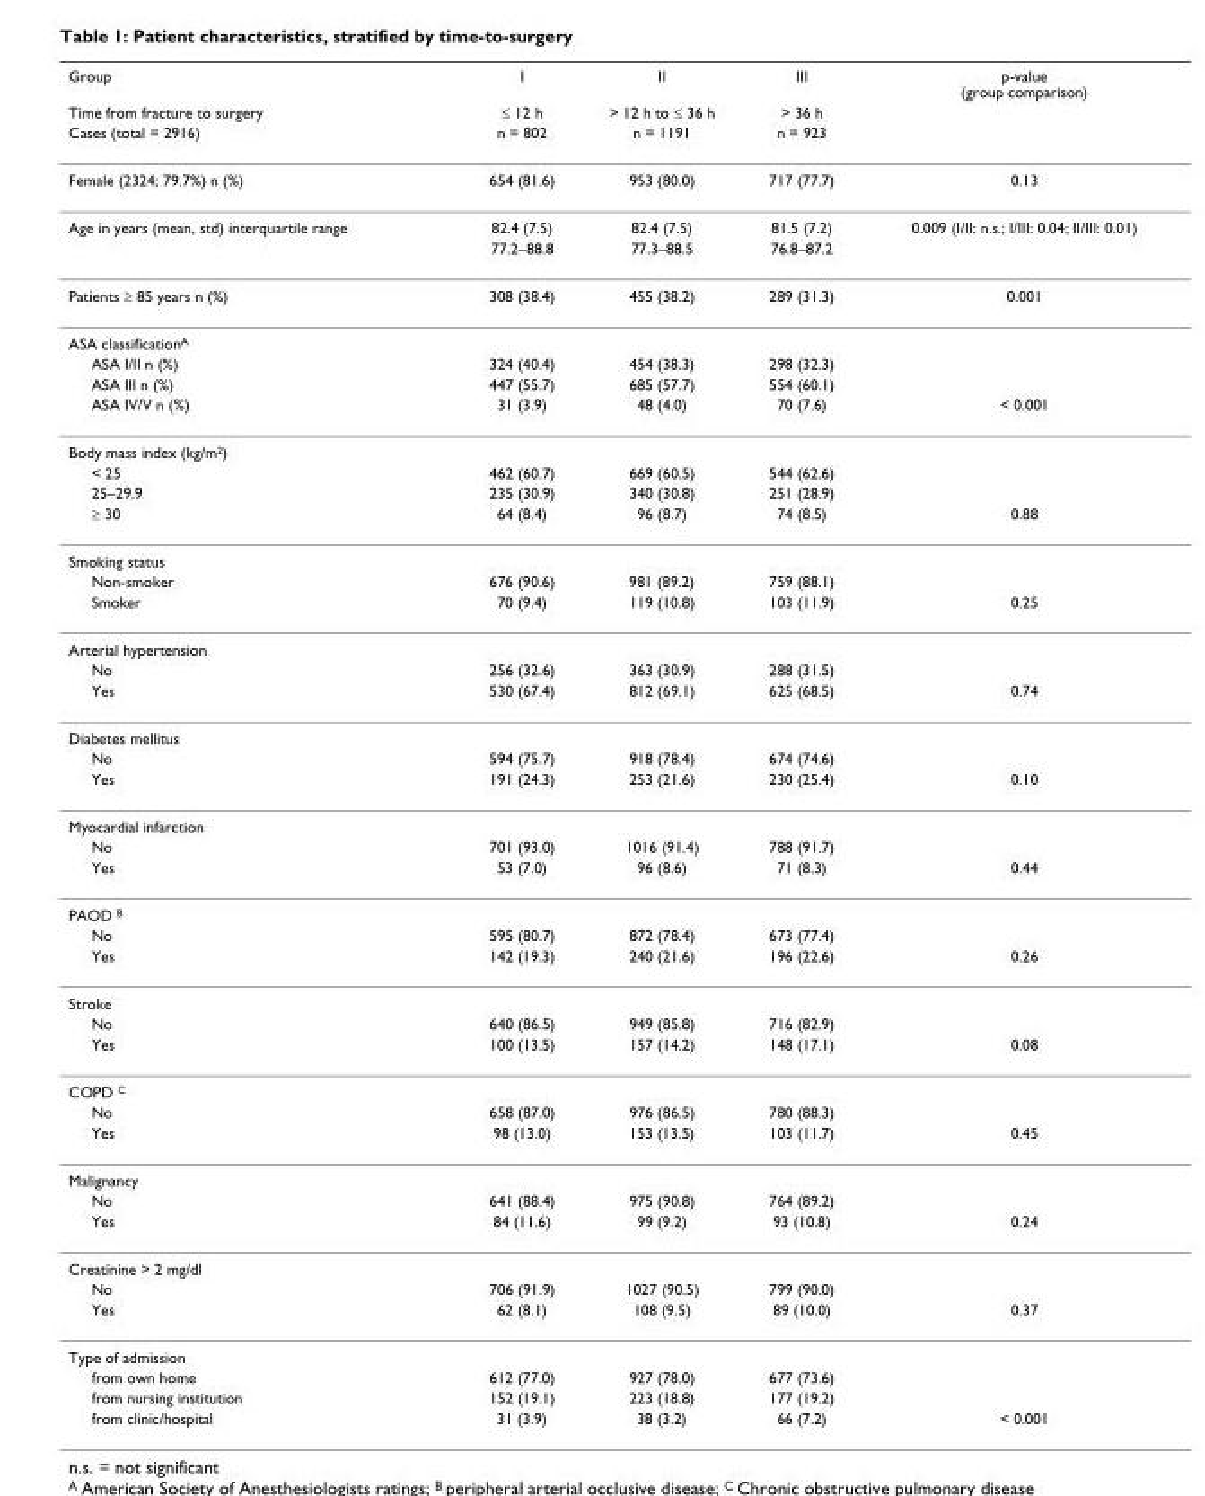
<table><thead><tr><td rowspan="3">Group Time from fracture to surgery Cases (total = 2916)</td><td rowspan="3">I ≤ 12 h n = 802</td><td rowspan="3">II &gt; 12 h to ≤ 36 h n = 1191</td><td rowspan="3">III &gt; 36 h n = 923</td><td rowspan="3">p-value (group comparison)</td></tr><tr></tr><tr></tr></thead><tbody><tr><td>Female (2324; 79.7%) n (%)</td><td>654 (81.6)</td><td>953 (80.0)</td><td>717 (77.7)</td><td>0.13</td></tr><tr><td rowspan="2">Age in years (mean, std) interquartile range</td><td>82.4 (7.5)</td><td>82.4 (7.5)</td><td>81.5 (7.2)</td><td>0.009 (I/II: n.s.; I/III: 0.04; II/III: 0.01)</td></tr><tr><td>77.2–88.8</td><td>77.3–88.5</td><td>76.8–87.2</td><td></td></tr><tr><td>Patients ≥ 85 years n (%)</td><td>308 (38.4)</td><td>455 (38.2)</td><td>289 (31.3)</td><td>0.001</td></tr><tr><td colspan="5">ASA classification<sup>A</sup></td></tr><tr><td>ASA I/II n (%)</td><td>324 (40.4)</td><td>454 (38.3)</td><td>298 (32.3)</td><td></td></tr><tr><td>ASA III n (%)</td><td>447 (55.7)</td><td>685 (57.7)</td><td>554 (60.1)</td><td></td></tr><tr><td>ASA IV/V n (%)</td><td>31 (3.9)</td><td>48 (4.0)</td><td>70 (7.6)</td><td>&lt; 0.001</td></tr><tr><td colspan="5">Body mass index (kg/m<sup>2</sup>)</td></tr><tr><td>&lt; 25</td><td>462 (60.7)</td><td>669 (60.5)</td><td>544 (62.6)</td><td></td></tr><tr><td>25–29.9</td><td>235 (30.9)</td><td>340 (30.8)</td><td>251 (28.9)</td><td></td></tr><tr><td>≥ 30</td><td>64 (8.4)</td><td>96 (8.7)</td><td>74 (8.5)</td><td>0.88</td></tr><tr><td colspan="5">Smoking status</td></tr><tr><td>Non-smoker</td><td>676 (90.6)</td><td>981 (89.2)</td><td>759 (88.1)</td><td></td></tr><tr><td>Smoker</td><td>70 (9.4)</td><td>119 (10.8)</td><td>103 (11.9)</td><td>0.25</td></tr><tr><td colspan="5">Arterial hypertension</td></tr><tr><td>No</td><td>256 (32.6)</td><td>363 (30.9)</td><td>288 (31.5)</td><td></td></tr><tr><td>Yes</td><td>530 (67.4)</td><td>812 (69.1)</td><td>625 (68.5)</td><td>0.74</td></tr><tr><td colspan="5">Diabetes mellitus</td></tr><tr><td>No</td><td>594 (75.7)</td><td>918 (78.4)</td><td>674 (74.6)</td><td></td></tr><tr><td>Yes</td><td>191 (24.3)</td><td>253 (21.6)</td><td>230 (25.4)</td><td>0.10</td></tr><tr><td colspan="5">Myocardial infarction</td></tr><tr><td>No</td><td>701 (93.0)</td><td>1016 (91.4)</td><td>788 (91.7)</td><td></td></tr><tr><td>Yes</td><td>53 (7.0)</td><td>96 (8.6)</td><td>71 (8.3)</td><td>0.44</td></tr><tr><td colspan="5">PAOD <sup>B</sup></td></tr><tr><td>No</td><td>595 (80.7)</td><td>872 (78.4)</td><td>673 (77.4)</td><td></td></tr><tr><td>Yes</td><td>142 (19.3)</td><td>240 (21.6)</td><td>196 (22.6)</td><td>0.26</td></tr><tr><td colspan="5">Stroke</td></tr><tr><td>No</td><td>640 (86.5)</td><td>949 (85.8)</td><td>716 (82.9)</td><td></td></tr><tr><td>Yes</td><td>100 (13.5)</td><td>157 (14.2)</td><td>148 (17.1)</td><td>0.08</td></tr><tr><td colspan="5">COPD <sup>C</sup></td></tr><tr><td>No</td><td>658 (87.0)</td><td>976 (86.5)</td><td>780 (88.3)</td><td></td></tr><tr><td>Yes</td><td>98 (13.0)</td><td>153 (13.5)</td><td>103 (11.7)</td><td>0.45</td></tr><tr><td colspan="5">Malignancy</td></tr><tr><td>No</td><td>641 (88.4)</td><td>975 (90.8)</td><td>764 (89.2)</td><td></td></tr><tr><td>Yes</td><td>84 (11.6)</td><td>99 (9.2)</td><td>93 (10.8)</td><td>0.24</td></tr><tr><td colspan="5">Creatinine &gt; 2 mg/dl</td></tr><tr><td>No</td><td>706 (91.9)</td><td>1027 (90.5)</td><td>799 (90.0)</td><td></td></tr><tr><td>Yes</td><td>62 (8.1)</td><td>108 (9.5)</td><td>89 (10.0)</td><td>0.37</td></tr><tr><td colspan="5">Type of admission</td></tr><tr><td>from own home</td><td>612 (77.0)</td><td>927 (78.0)</td><td>677 (73.6)</td><td></td></tr><tr><td>from nursing institution</td><td>152 (19.1)</td><td>223 (18.8)</td><td>177 (19.2)</td><td></td></tr><tr><td>from clinic/hospital</td><td>31 (3.9)</td><td>38 (3.2)</td><td>66 (7.2)</td><td>&lt; 0.001</td></tr></tbody></table>